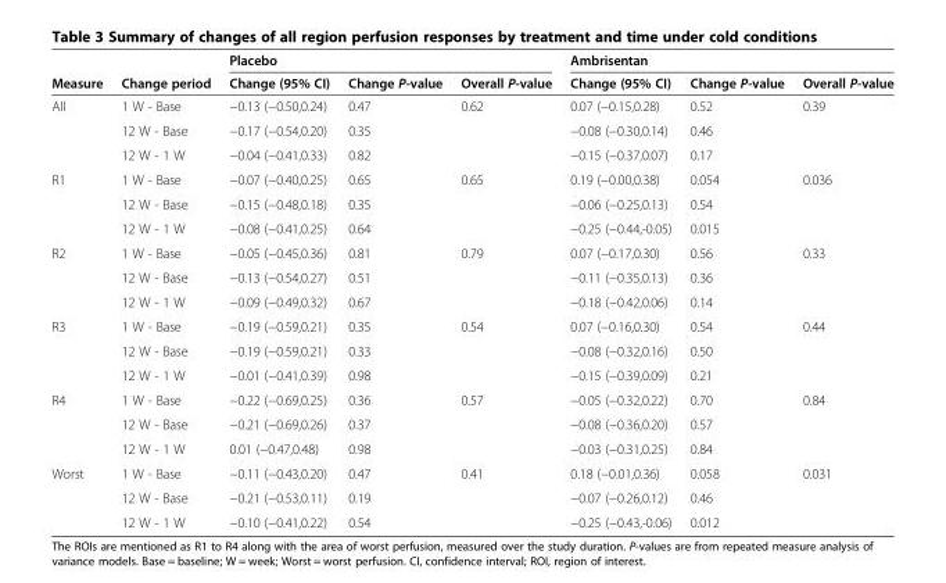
<table><thead><tr><td rowspan="2">Measure</td><td rowspan="2">Change period</td><td colspan="3">Placebo</td><td colspan="3">Ambrisentan</td></tr><tr><td>Change (95% CI)</td><td>Change P-value</td><td>Overall P-value</td><td>Change (95% CI)</td><td>Change P-value</td><td>Overall P-value</td></tr></thead><tbody><tr><td rowspan="3">All</td><td>1 W - Base</td><td>−0.13 (−0.50,0.24)</td><td>0.47</td><td>0.62</td><td>0.07 (−0.15,0.28)</td><td>0.52</td><td>0.39</td></tr><tr><td>12 W - Base</td><td>−0.17 (−0.54,0.20)</td><td>0.35</td><td></td><td>−0.08 (−0.30,0.14)</td><td>0.46</td><td></td></tr><tr><td>12 W - 1 W</td><td>−0.04 (−0.41,0.33)</td><td>0.82</td><td></td><td>−0.15 (−0.37,0.07)</td><td>0.17</td><td></td></tr><tr><td rowspan="3">R1</td><td>1 W - Base</td><td>−0.07 (−0.40,0.25)</td><td>0.65</td><td>0.65</td><td>0.19 (−0.00,0.38)</td><td>0.054</td><td>0.036</td></tr><tr><td>12 W - Base</td><td>−0.15 (−0.48,0.18)</td><td>0.35</td><td></td><td>−0.06 (−0.25,0.13)</td><td>0.54</td><td></td></tr><tr><td>12 W - 1 W</td><td>−0.08 (−0.41,0.25)</td><td>0.64</td><td></td><td>−0.25 (−0.44,-0.05)</td><td>0.015</td><td></td></tr><tr><td rowspan="3">R2</td><td>1 W - Base</td><td>−0.05 (−0.45,0.36)</td><td>0.81</td><td>0.79</td><td>0.07 (−0.17,0.30)</td><td>0.56</td><td>0.33</td></tr><tr><td>12 W - Base</td><td>−0.13 (−0.54,0.27)</td><td>0.51</td><td></td><td>−0.11 (−0.35,0.13)</td><td>0.36</td><td></td></tr><tr><td>12 W - 1 W</td><td>−0.09 (−0.49,0.32)</td><td>0.67</td><td></td><td>−0.18 (−0.42,0.06)</td><td>0.14</td><td></td></tr><tr><td rowspan="3">R3</td><td>1 W - Base</td><td>−0.19 (−0.59,0.21)</td><td>0.35</td><td>0.54</td><td>0.07 (−0.16,0.30)</td><td>0.54</td><td>0.44</td></tr><tr><td>12 W - Base</td><td>−0.19 (−0.59,0.21)</td><td>0.33</td><td></td><td>−0.08 (−0.32,0.16)</td><td>0.50</td><td></td></tr><tr><td>12 W - 1 W</td><td>−0.01 (−0.41,0.39)</td><td>0.98</td><td></td><td>−0.15 (−0.39,0.09)</td><td>0.21</td><td></td></tr><tr><td rowspan="3">R4</td><td>1 W - Base</td><td>−0.22 (−0.69,0.25)</td><td>0.36</td><td>0.57</td><td>−0.05 (−0.32,0.22)</td><td>0.70</td><td>0.84</td></tr><tr><td>12 W - Base</td><td>−0.21 (−0.69,0.26)</td><td>0.37</td><td></td><td>−0.08 (−0.36,0.20)</td><td>0.57</td><td></td></tr><tr><td>12 W - 1 W</td><td>0.01 (−0.47,0.48)</td><td>0.98</td><td></td><td>−0.03 (−0.31,0.25)</td><td>0.84</td><td></td></tr><tr><td rowspan="3">Worst</td><td>1 W - Base</td><td>−0.11 (−0.43,0.20)</td><td>0.47</td><td>0.41</td><td>0.18 (−0.01,0.36)</td><td>0.058</td><td>0.031</td></tr><tr><td>12 W - Base</td><td>−0.21 (−0.53,0.11)</td><td>0.19</td><td></td><td>−0.07 (−0.26,0.12)</td><td>0.46</td><td></td></tr><tr><td>12 W - 1 W</td><td>−0.10 (−0.41,0.22)</td><td>0.54</td><td></td><td>−0.25 (−0.43,-0.06)</td><td>0.012</td><td></td></tr></tbody></table>